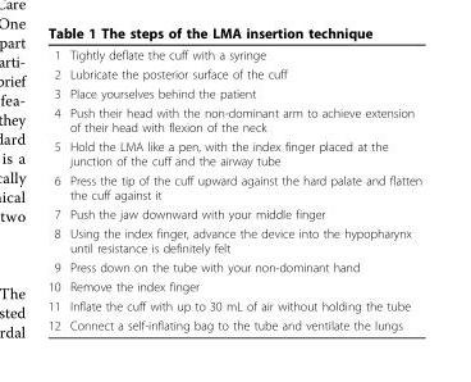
<table><tbody><tr><td>1</td><td>Tightly deflate the cuff with a syringe</td></tr><tr><td>2</td><td>Lubricate the posterior surface of the cuff</td></tr><tr><td>3</td><td>Place yourselves behind the patient</td></tr><tr><td>4</td><td>Push their head with the non-dominant arm to achieve extension of their head with flexion of the neck</td></tr><tr><td>5</td><td>Hold the LMA like a pen, with the index finger placed at the junction of the cuff and the airway tube</td></tr><tr><td>6</td><td>Press the tip of the cuff upward against the hard palate and flatten the cuff against it</td></tr><tr><td>7</td><td>Push the jaw downward with your middle finger</td></tr><tr><td>8</td><td>Using the index finger, advance the device into the hypopharynx until resistance is definitely felt</td></tr><tr><td>9</td><td>Press down on the tube with your non-dominant hand</td></tr><tr><td>10</td><td>Remove the index finger</td></tr><tr><td>11</td><td>Inflate the cuff with up to 30 mL of air without holding the tube</td></tr><tr><td>12</td><td>Connect a self-inflating bag to the tube and ventilate the lungs</td></tr></tbody></table>